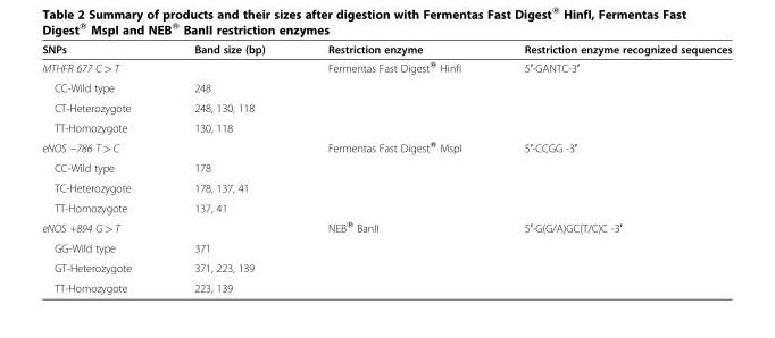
<table><thead><tr><td>SNPs</td><td>Band size (bp)</td><td>Restriction enzyme</td><td>Restriction enzyme recognized sequences</td></tr></thead><tbody><tr><td colspan="2">MTHFR 677 C &gt; T</td><td rowspan="4">Fermentas Fast Digest® HinfI</td><td rowspan="4">5′-GANTC-3′</td></tr><tr><td>CC-Wild type</td><td>248</td></tr><tr><td>CT-Heterozygote</td><td>248, 130, 118</td></tr><tr><td>TT-Homozygote</td><td>130, 118</td></tr><tr><td colspan="2">eNOS −786 T &gt; C</td><td rowspan="4">Fermentas Fast Digest® MspI</td><td rowspan="4">5′-CCGG -3′</td></tr><tr><td>CC-Wild type</td><td>178</td></tr><tr><td>TC-Heterozygote</td><td>178, 137, 41</td></tr><tr><td>TT-Homozygote</td><td>137, 41</td></tr><tr><td colspan="2">eNOS +894 G &gt; T</td><td rowspan="4">NEB® BanII</td><td rowspan="4">5′-G(G/A)GC(T/C)C -3′</td></tr><tr><td>GG-Wild type</td><td>371</td></tr><tr><td>GT-Heterozygote</td><td>371, 223, 139</td></tr><tr><td>TT-Homozygote</td><td>223, 139</td></tr></tbody></table>